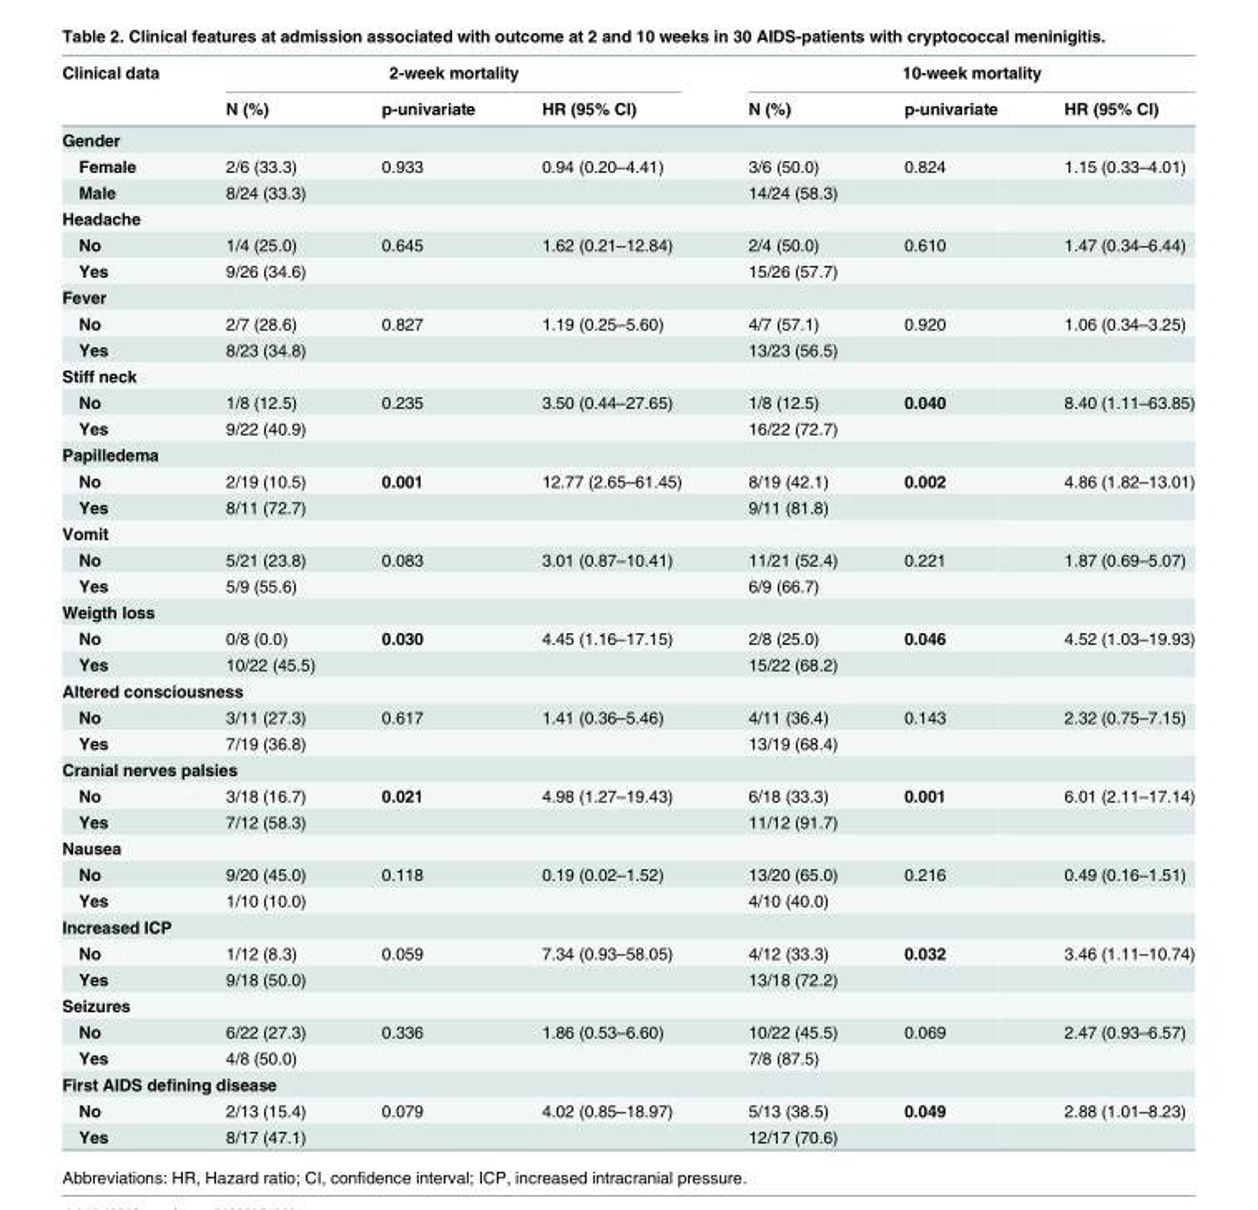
<table><thead><tr><td rowspan="2">Clinical data</td><td colspan="3">2-week mortality</td><td colspan="3">10-week mortality</td></tr><tr><td>N (%)</td><td>p-univariate</td><td>HR (95% CI)</td><td>N (%)</td><td>p-univariate</td><td>HR (95% CI)</td></tr></thead><tbody><tr><td colspan="7">Gender</td></tr><tr><td>Female</td><td>2/6 (33.3)</td><td>0.933</td><td>0.94 (0.20–4.41)</td><td>3/6 (50.0)</td><td>0.824</td><td>1.15 (0.33–4.01)</td></tr><tr><td>Male</td><td>8/24 (33.3)</td><td></td><td></td><td>14/24 (58.3)</td><td></td><td></td></tr><tr><td colspan="7">Headache</td></tr><tr><td>No</td><td>1/4 (25.0)</td><td>0.645</td><td>1.62 (0.21–12.84)</td><td>2/4 (50.0)</td><td>0.610</td><td>1.47 (0.34–6.44)</td></tr><tr><td>Yes</td><td>9/26 (34.6)</td><td></td><td></td><td>15/26 (57.7)</td><td></td><td></td></tr><tr><td colspan="7">Fever</td></tr><tr><td>No</td><td>2/7 (28.6)</td><td>0.827</td><td>1.19 (0.25–5.60)</td><td>4/7 (57.1)</td><td>0.920</td><td>1.06 (0.34–3.25)</td></tr><tr><td>Yes</td><td>8/23 (34.8)</td><td></td><td></td><td>13/23 (56.5)</td><td></td><td></td></tr><tr><td colspan="7">Stiff neck</td></tr><tr><td>No</td><td>1/8 (12.5)</td><td>0.235</td><td>3.50 (0.44–27.65)</td><td>1/8 (12.5)</td><td>0.040</td><td>8.40 (1.11–63.85)</td></tr><tr><td>Yes</td><td>9/22 (40.9)</td><td></td><td></td><td>16/22 (72.7)</td><td></td><td></td></tr><tr><td colspan="7">Papilledema</td></tr><tr><td>No</td><td>2/19 (10.5)</td><td>0.001</td><td>12.77 (2.65–61.45)</td><td>8/19 (42.1)</td><td>0.002</td><td>4.86 (1.82–13.01)</td></tr><tr><td>Yes</td><td>8/11 (72.7)</td><td></td><td></td><td>9/11 (81.8)</td><td></td><td></td></tr><tr><td colspan="7">Vomit</td></tr><tr><td>No</td><td>5/21 (23.8)</td><td>0.083</td><td>3.01 (0.87–10.41)</td><td>11/21 (52.4)</td><td>0.221</td><td>1.87 (0.69–5.07)</td></tr><tr><td>Yes</td><td>5/9 (55.6)</td><td></td><td></td><td>6/9 (66.7)</td><td></td><td></td></tr><tr><td colspan="7">Weigth loss</td></tr><tr><td>No</td><td>0/8 (0.0)</td><td>0.030</td><td>4.45 (1.16–17.15)</td><td>2/8 (25.0)</td><td>0.046</td><td>4.52 (1.03–19.93)</td></tr><tr><td>Yes</td><td>10/22 (45.5)</td><td></td><td></td><td>15/22 (68.2)</td><td></td><td></td></tr><tr><td colspan="7">Altered consciousness</td></tr><tr><td>No</td><td>3/11 (27.3)</td><td>0.617</td><td>1.41 (0.36–5.46)</td><td>4/11 (36.4)</td><td>0.143</td><td>2.32 (0.75–7.15)</td></tr><tr><td>Yes</td><td>7/19 (36.8)</td><td></td><td></td><td>13/19 (68.4)</td><td></td><td></td></tr><tr><td colspan="7">Cranial nerves palsies</td></tr><tr><td>No</td><td>3/18 (16.7)</td><td>0.021</td><td>4.98 (1.27–19.43)</td><td>6/18 (33.3)</td><td>0.001</td><td>6.01 (2.11–17.14)</td></tr><tr><td>Yes</td><td>7/12 (58.3)</td><td></td><td></td><td>11/12 (91.7)</td><td></td><td></td></tr><tr><td colspan="7">Nausea</td></tr><tr><td>No</td><td>9/20 (45.0)</td><td>0.118</td><td>0.19 (0.02–1.52)</td><td>13/20 (65.0)</td><td>0.216</td><td>0.49 (0.16–1.51)</td></tr><tr><td>Yes</td><td>1/10 (10.0)</td><td></td><td></td><td>4/10 (40.0)</td><td></td><td></td></tr><tr><td colspan="7">Increased ICP</td></tr><tr><td>No</td><td>1/12 (8.3)</td><td>0.059</td><td>7.34 (0.93–58.05)</td><td>4/12 (33.3)</td><td>0.032</td><td>3.46 (1.11–10.74)</td></tr><tr><td>Yes</td><td>9/18 (50.0)</td><td></td><td></td><td>13/18 (72.2)</td><td></td><td></td></tr><tr><td colspan="7">Seizures</td></tr><tr><td>No</td><td>6/22 (27.3)</td><td>0.336</td><td>1.86 (0.53–6.60)</td><td>10/22 (45.5)</td><td>0.069</td><td>2.47 (0.93–6.57)</td></tr><tr><td>Yes</td><td>4/8 (50.0)</td><td></td><td></td><td>7/8 (87.5)</td><td></td><td></td></tr><tr><td colspan="7">First AIDS defining disease</td></tr><tr><td>No</td><td>2/13 (15.4)</td><td>0.079</td><td>4.02 (0.85–18.97)</td><td>5/13 (38.5)</td><td>0.049</td><td>2.88 (1.01–8.23)</td></tr><tr><td>Yes</td><td>8/17 (47.1)</td><td></td><td></td><td>12/17 (70.6)</td><td></td><td></td></tr></tbody></table>